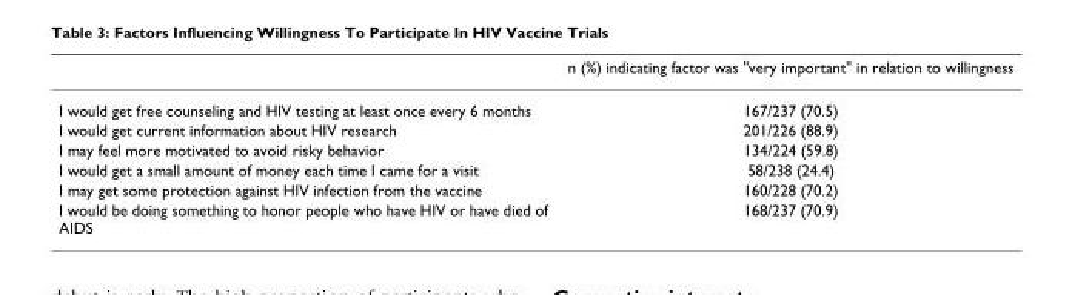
<table><thead><tr><td></td><td>n (%) indicating factor was &quot;very important&quot; in relation to willingness</td></tr></thead><tbody><tr><td>I would get free counseling and HIV testing at least once every 6 months</td><td>167/237 (70.5)</td></tr><tr><td>I would get current information about HIV research</td><td>201/226 (88.9)</td></tr><tr><td>I may feel more motivated to avoid risky behavior</td><td>134/224 (59.8)</td></tr><tr><td>I would get a small amount of money each time I came for a visit</td><td>58/238 (24.4)</td></tr><tr><td>I may get some protection against HIV infection from the vaccine</td><td>160/228 (70.2)</td></tr><tr><td>I would be doing something to honor people who have HIV or have died of AIDS</td><td>168/237 (70.9)</td></tr></tbody></table>